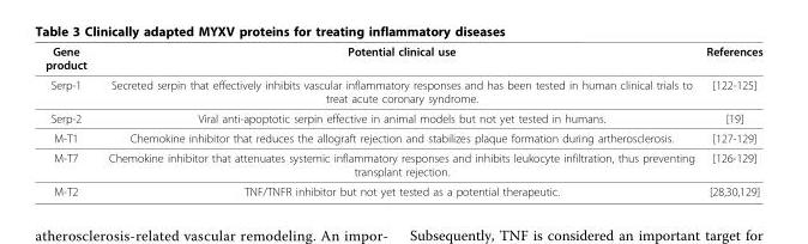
<table><thead><tr><td>Gene product</td><td>Potential clinical use</td><td>References</td></tr></thead><tbody><tr><td>Serp-1</td><td>Secreted serpin that effectively inhibits vascular inflammatory responses and has been tested in human clinical trials to treat acute coronary syndrome.</td><td>[122-125]</td></tr><tr><td>Serp-2</td><td>Viral anti-apoptotic serpin effective in animal models but not yet tested in humans.</td><td>[19]</td></tr><tr><td>M-T1</td><td>Chemokine inhibitor that reduces the allograft rejection and stabilizes plaque formation during artherosclerosis.</td><td>[127-129]</td></tr><tr><td>M-T7</td><td>Chemokine inhibitor that attenuates systemic inflammatory responses and inhibits leukocyte infiltration, thus preventing transplant rejection.</td><td>[126-129]</td></tr><tr><td>M-T2</td><td>TNF/TNFR inhibitor but not yet tested as a potential therapeutic.</td><td>[28,30,129]</td></tr></tbody></table>